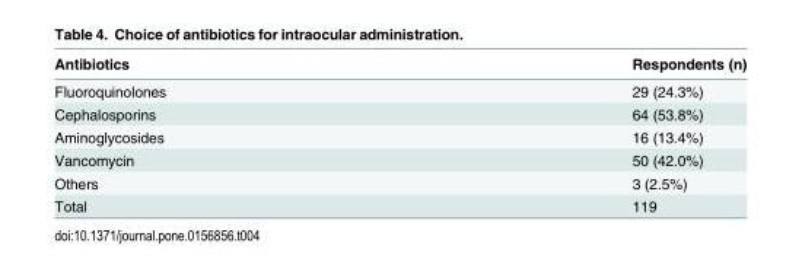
<table><thead><tr><td>Antibiotics</td><td>Respondents (n)</td></tr></thead><tbody><tr><td>Fluoroquinolones</td><td>29 (24.3%)</td></tr><tr><td>Cephalosporins</td><td>64 (53.8%)</td></tr><tr><td>Aminoglycosides</td><td>16 (13.4%)</td></tr><tr><td>Vancomycin</td><td>50 (42.0%)</td></tr><tr><td>Others</td><td>3 (2.5%)</td></tr><tr><td>Total</td><td>119</td></tr></tbody></table>